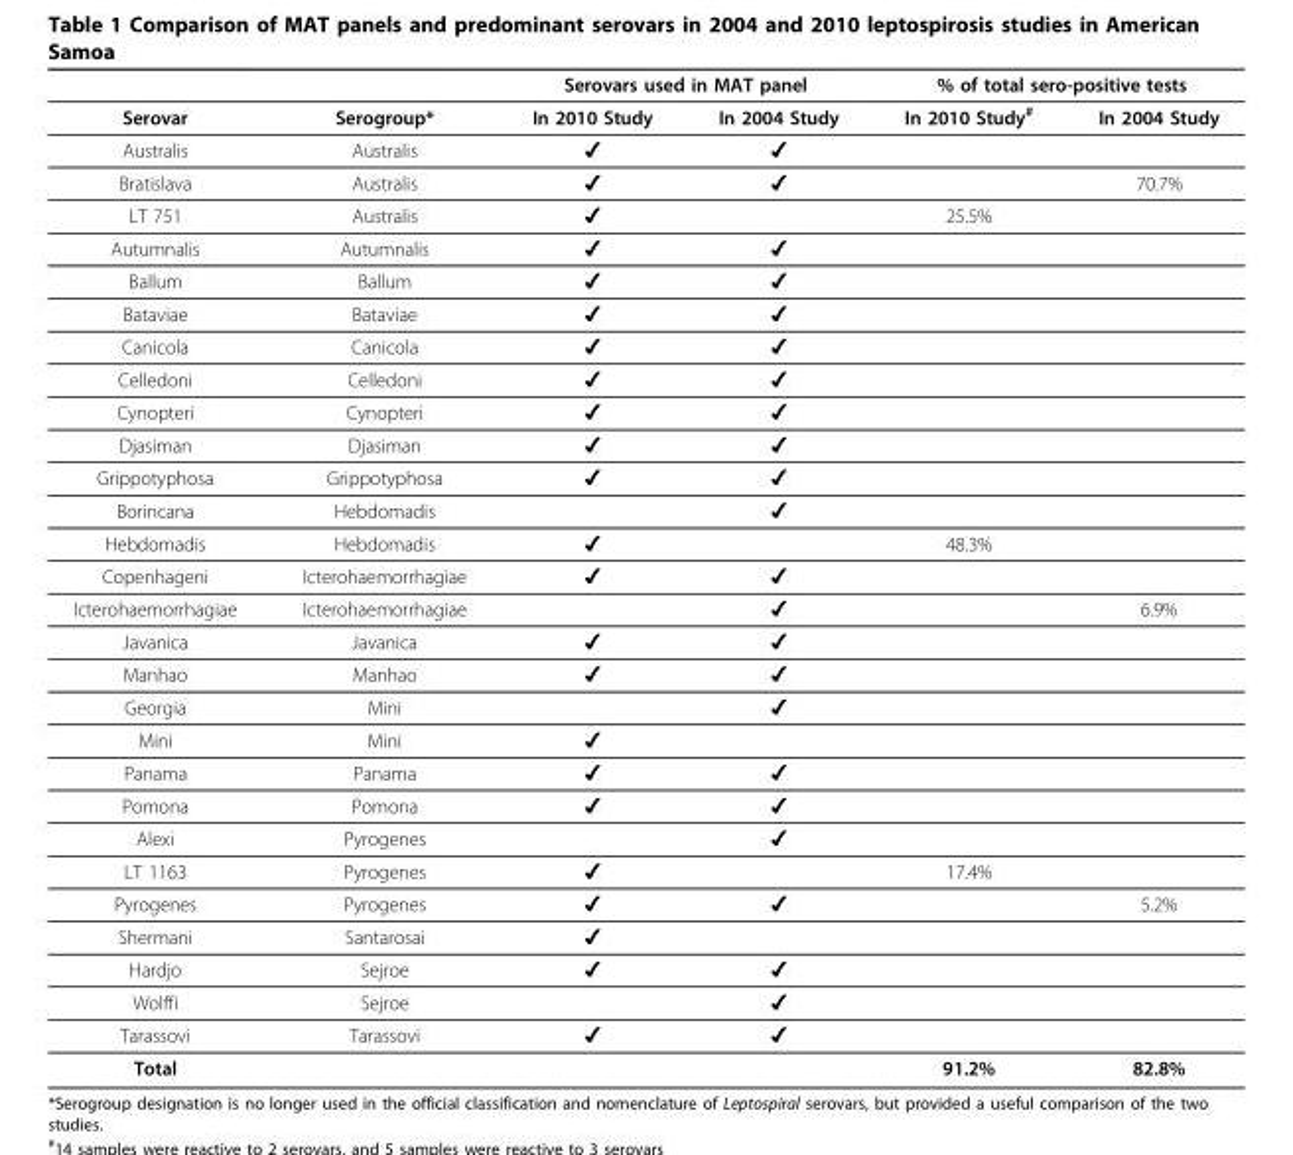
<table><thead><tr><td rowspan="2">Serovar</td><td rowspan="2">Serogroup*</td><td colspan="2">Serovars used in MAT panel</td><td colspan="2">% of total sero-positive tests</td></tr><tr><td>In 2010 Study</td><td>In 2004 Study</td><td>In 2010 Study<sup>#</sup></td><td>In 2004 Study</td></tr></thead><tbody><tr><td>Australis</td><td>Australis</td><td>✔</td><td>✔</td><td></td><td></td></tr><tr><td>Bratislava</td><td>Australis</td><td>✔</td><td>✔</td><td></td><td>70.7%</td></tr><tr><td>LT 751</td><td>Australis</td><td>✔</td><td></td><td>25.5%</td><td></td></tr><tr><td>Autumnalis</td><td>Autumnalis</td><td>✔</td><td>✔</td><td></td><td></td></tr><tr><td>Ballum</td><td>Ballum</td><td>✔</td><td>✔</td><td></td><td></td></tr><tr><td>Bataviae</td><td>Bataviae</td><td>✔</td><td>✔</td><td></td><td></td></tr><tr><td>Canicola</td><td>Canicola</td><td>✔</td><td>✔</td><td></td><td></td></tr><tr><td>Celledoni</td><td>Celledoni</td><td>✔</td><td>✔</td><td></td><td></td></tr><tr><td>Cynopteri</td><td>Cynopteri</td><td>✔</td><td>✔</td><td></td><td></td></tr><tr><td>Djasiman</td><td>Djasiman</td><td>✔</td><td>✔</td><td></td><td></td></tr><tr><td>Grippotyphosa</td><td>Grippotyphosa</td><td>✔</td><td>✔</td><td></td><td></td></tr><tr><td>Borincana</td><td>Hebdomadis</td><td></td><td>✔</td><td></td><td></td></tr><tr><td>Hebdomadis</td><td>Hebdomadis</td><td>✔</td><td></td><td>48.3%</td><td></td></tr><tr><td>Copenhageni</td><td>Icterohaemorrhagiae</td><td>✔</td><td>✔</td><td></td><td></td></tr><tr><td>Icterohaemorrhagiae</td><td>Icterohaemorrhagiae</td><td></td><td>✔</td><td></td><td>6.9%</td></tr><tr><td>Javanica</td><td>Javanica</td><td>✔</td><td>✔</td><td></td><td></td></tr><tr><td>Manhao</td><td>Manhao</td><td>✔</td><td>✔</td><td></td><td></td></tr><tr><td>Georgia</td><td>Mini</td><td></td><td>✔</td><td></td><td></td></tr><tr><td>Mini</td><td>Mini</td><td>✔</td><td></td><td></td><td></td></tr><tr><td>Panama</td><td>Panama</td><td>✔</td><td>✔</td><td></td><td></td></tr><tr><td>Pomona</td><td>Pomona</td><td>✔</td><td>✔</td><td></td><td></td></tr><tr><td>Alexi</td><td>Pyrogenes</td><td></td><td>✔</td><td></td><td></td></tr><tr><td>LT 1163</td><td>Pyrogenes</td><td>✔</td><td></td><td>17.4%</td><td></td></tr><tr><td>Pyrogenes</td><td>Pyrogenes</td><td>✔</td><td>✔</td><td></td><td>5.2%</td></tr><tr><td>Shermani</td><td>Santarosai</td><td>✔</td><td></td><td></td><td></td></tr><tr><td>Hardjo</td><td>Sejroe</td><td>✔</td><td>✔</td><td></td><td></td></tr><tr><td>Wolffi</td><td>Sejroe</td><td></td><td>✔</td><td></td><td></td></tr><tr><td>Tarassovi</td><td>Tarassovi</td><td>✔</td><td>✔</td><td></td><td></td></tr><tr><td>Total</td><td></td><td></td><td></td><td>91.2%</td><td>82.8%</td></tr></tbody></table>